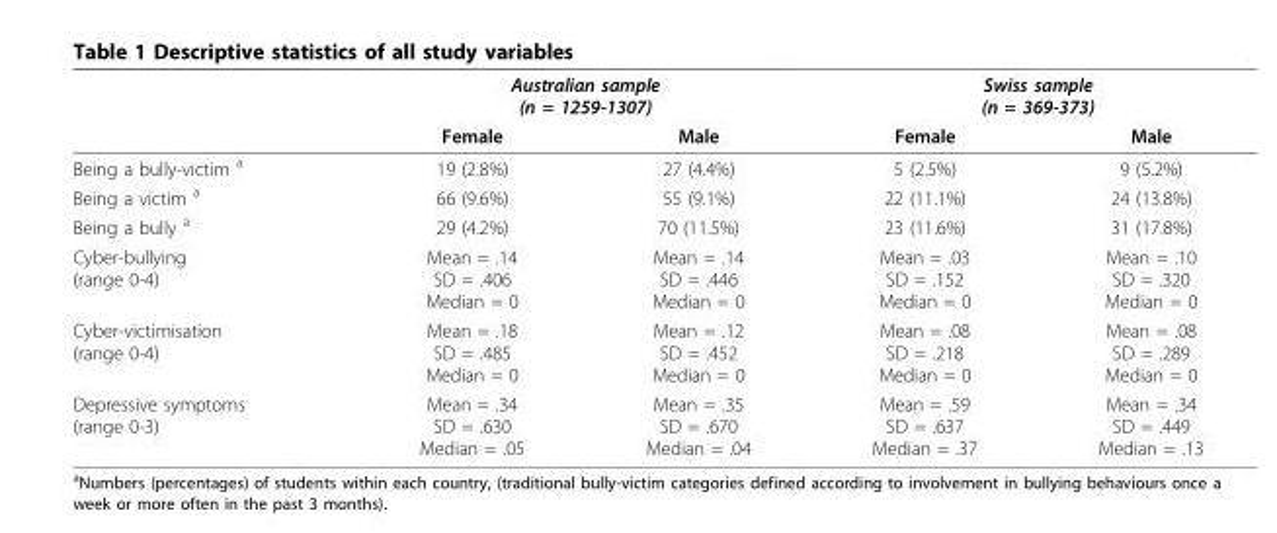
<table><thead><tr><td rowspan="2"></td><td colspan="2">Australian sample (n = 1259-1307)</td><td colspan="2">Swiss sample (n = 369-373)</td></tr><tr><td>Female</td><td>Male</td><td>Female</td><td>Male</td></tr></thead><tbody><tr><td>Being a bully-victim <sup>a</sup></td><td>19 (2.8%)</td><td>27 (4.4%)</td><td>5 (2.5%)</td><td>9 (5.2%)</td></tr><tr><td>Being a victim <sup>a</sup></td><td>66 (9.6%)</td><td>55 (9.1%)</td><td>22 (11.1%)</td><td>24 (13.8%)</td></tr><tr><td>Being a bully <sup>a</sup></td><td>29 (4.2%)</td><td>70 (11.5%)</td><td>23 (11.6%)</td><td>31 (17.8%)</td></tr><tr><td>Cyber-bullying (range 0-4)</td><td>Mean = .14 SD = .406 Median = 0</td><td>Mean = .14 SD = .446 Median = 0</td><td>Mean = .03 SD = .152 Median = 0</td><td>Mean = .10 SD = .320 Median = 0</td></tr><tr><td>Cyber-victimisation (range 0-4)</td><td>Mean = .18 SD = .485 Median = 0</td><td>Mean = .12 SD = .452 Median = 0</td><td>Mean = .08 SD = .218 Median = 0</td><td>Mean = .08 SD = .289 Median = 0</td></tr><tr><td>Depressive symptoms (range 0-3)</td><td>Mean = .34 SD = .630 Median = .05</td><td>Mean = .35 SD = .670 Median = .04</td><td>Mean = .59 SD = .637 Median = .37</td><td>Mean = .34 SD = .449 Median = .13</td></tr></tbody></table>